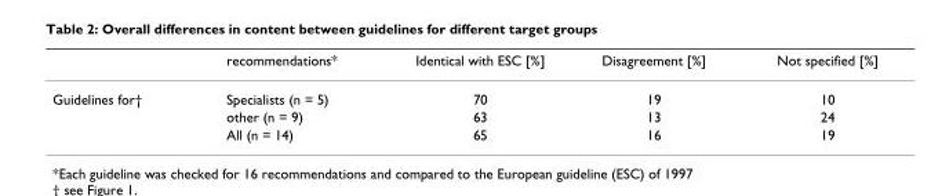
<table><thead><tr><td></td><td>recommendations*</td><td>Identical with ESC [%]</td><td>Disagreement [%]</td><td>Not specified [%]</td></tr></thead><tbody><tr><td rowspan="3">Guidelines for†</td><td>Specialists (n = 5)</td><td>70</td><td>19</td><td>10</td></tr><tr><td>other (n = 9)</td><td>63</td><td>13</td><td>24</td></tr><tr><td>All (n = 14)</td><td>65</td><td>16</td><td>19</td></tr></tbody></table>